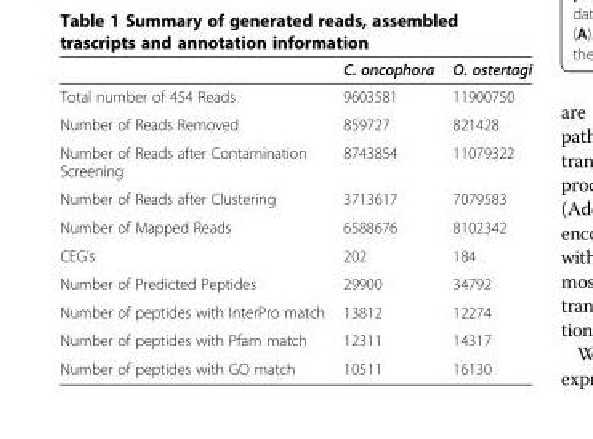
<table><thead><tr><td></td><td>C. oncophora</td><td>O. ostertagi</td></tr></thead><tbody><tr><td>Total number of 454 Reads</td><td>9603581</td><td>11900750</td></tr><tr><td>Number of Reads Removed</td><td>859727</td><td>821428</td></tr><tr><td>Number of Reads after Contamination Screening</td><td>8743854</td><td>11079322</td></tr><tr><td>Number of Reads after Clustering</td><td>3713617</td><td>7079583</td></tr><tr><td>Number of Mapped Reads</td><td>6588676</td><td>8102342</td></tr><tr><td>CEG’s</td><td>202</td><td>184</td></tr><tr><td>Number of Predicted Peptides</td><td>29900</td><td>34792</td></tr><tr><td>Number of peptides with InterPro match</td><td>13812</td><td>12274</td></tr><tr><td>Number of peptides with Pfam match</td><td>12311</td><td>14317</td></tr><tr><td>Number of peptides with GO match</td><td>10511</td><td>16130</td></tr></tbody></table>